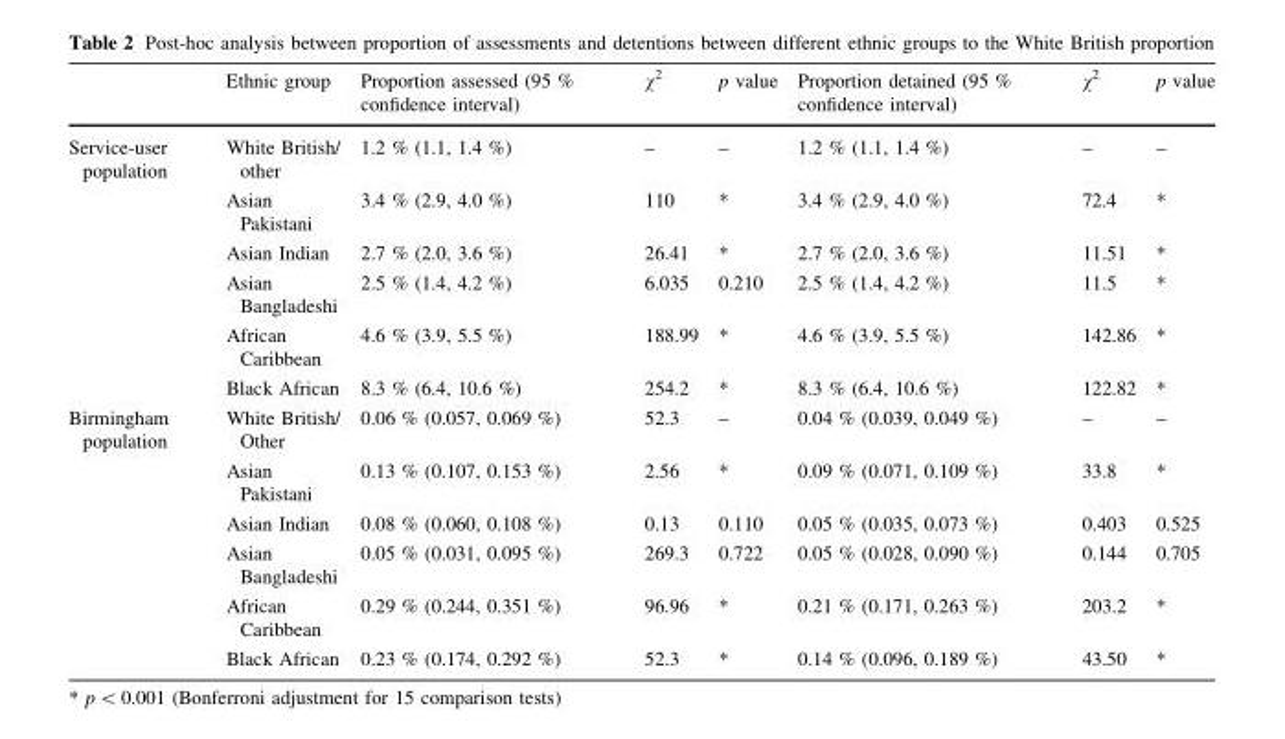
<table><thead><tr><td></td><td>Ethnic group</td><td>Proportion assessed (95 % confidence interval)</td><td>χ<sup>2</sup></td><td>p value</td><td>Proportion detained (95 % confidence interval)</td><td>χ<sup>2</sup></td><td>p value</td></tr></thead><tbody><tr><td rowspan="6">Service-user population</td><td>White British/ other</td><td>1.2 % (1.1, 1.4 %)</td><td>–</td><td>–</td><td>1.2 % (1.1, 1.4 %)</td><td>–</td><td>–</td></tr><tr><td>Asian Pakistani</td><td>3.4 % (2.9, 4.0 %)</td><td>110</td><td>*</td><td>3.4 % (2.9, 4.0 %)</td><td>72.4</td><td>*</td></tr><tr><td>Asian Indian</td><td>2.7 % (2.0, 3.6 %)</td><td>26.41</td><td>*</td><td>2.7 % (2.0, 3.6 %)</td><td>11.51</td><td>*</td></tr><tr><td>Asian Bangladeshi</td><td>2.5 % (1.4, 4.2 %)</td><td>6.035</td><td>0.210</td><td>2.5 % (1.4, 4.2 %)</td><td>11.5</td><td>*</td></tr><tr><td>African Caribbean</td><td>4.6 % (3.9, 5.5 %)</td><td>188.99</td><td>*</td><td>4.6 % (3.9, 5.5 %)</td><td>142.86</td><td>*</td></tr><tr><td>Black African</td><td>8.3 % (6.4, 10.6 %)</td><td>254.2</td><td>*</td><td>8.3 % (6.4, 10.6 %)</td><td>122.82</td><td>*</td></tr><tr><td rowspan="6">Birmingham population</td><td>White British/ Other</td><td>0.06 % (0.057, 0.069 %)</td><td>52.3</td><td>–</td><td>0.04 % (0.039, 0.049 %)</td><td>–</td><td>–</td></tr><tr><td>Asian Pakistani</td><td>0.13 % (0.107, 0.153 %)</td><td>2.56</td><td>*</td><td>0.09 % (0.071, 0.109 %)</td><td>33.8</td><td>*</td></tr><tr><td>Asian Indian</td><td>0.08 % (0.060, 0.108 %)</td><td>0.13</td><td>0.110</td><td>0.05 % (0.035, 0.073 %)</td><td>0.403</td><td>0.525</td></tr><tr><td>Asian Bangladeshi</td><td>0.05 % (0.031, 0.095 %)</td><td>269.3</td><td>0.722</td><td>0.05 % (0.028, 0.090 %)</td><td>0.144</td><td>0.705</td></tr><tr><td>African Caribbean</td><td>0.29 % (0.244, 0.351 %)</td><td>96.96</td><td>*</td><td>0.21 % (0.171, 0.263 %)</td><td>203.2</td><td>*</td></tr><tr><td>Black African</td><td>0.23 % (0.174, 0.292 %)</td><td>52.3</td><td>*</td><td>0.14 % (0.096, 0.189 %)</td><td>43.50</td><td>*</td></tr></tbody></table>